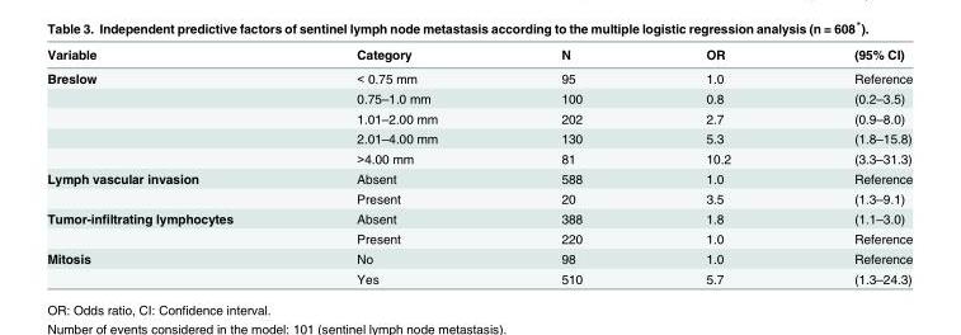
<table><thead><tr><td>Variable</td><td>Category</td><td>N</td><td>OR</td><td>(95% CI)</td></tr></thead><tbody><tr><td rowspan="5">Breslow</td><td>&lt; 0.75 mm</td><td>95</td><td>1.0</td><td>Reference</td></tr><tr><td>0.75–1.0 mm</td><td>100</td><td>0.8</td><td>(0.2–3.5)</td></tr><tr><td>1.01–2.00 mm</td><td>202</td><td>2.7</td><td>(0.9–8.0)</td></tr><tr><td>2.01–4.00 mm</td><td>130</td><td>5.3</td><td>(1.8–15.8)</td></tr><tr><td>&gt;4.00 mm</td><td>81</td><td>10.2</td><td>(3.3–31.3)</td></tr><tr><td rowspan="2">Lymph vascular invasion</td><td>Absent</td><td>588</td><td>1.0</td><td>Reference</td></tr><tr><td>Present</td><td>20</td><td>3.5</td><td>(1.3–9.1)</td></tr><tr><td rowspan="2">Tumor-infiltrating lymphocytes</td><td>Absent</td><td>388</td><td>1.8</td><td>(1.1–3.0)</td></tr><tr><td>Present</td><td>220</td><td>1.0</td><td>Reference</td></tr><tr><td rowspan="2">Mitosis</td><td>No</td><td>98</td><td>1.0</td><td>Reference</td></tr><tr><td>Yes</td><td>510</td><td>5.7</td><td>(1.3–24.3)</td></tr></tbody></table>